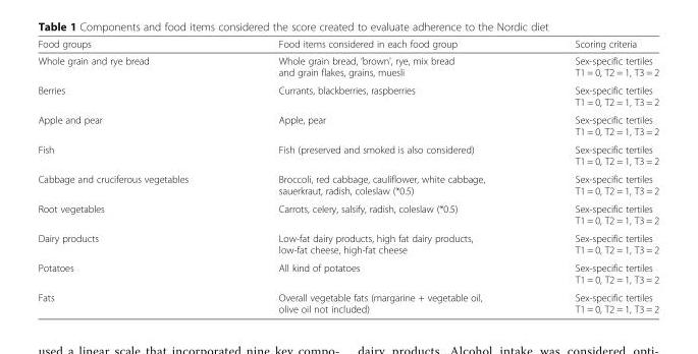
<table><thead><tr><td>Food groups</td><td>Food items considered in each food group</td><td>Scoring criteria</td></tr></thead><tbody><tr><td>Whole grain and rye bread</td><td>Whole grain bread, ‘brown’, rye, mix bread and grain flakes, grains, muesli</td><td>Sex-specific tertiles T1 = 0, T2 = 1, T3 = 2</td></tr><tr><td>Berries</td><td>Currants, blackberries, raspberries</td><td>Sex-specific tertiles T1 = 0, T2 = 1, T3 = 2</td></tr><tr><td>Apple and pear</td><td>Apple, pear</td><td>Sex-specific tertiles T1 = 0, T2 = 1, T3 = 2</td></tr><tr><td>Fish</td><td>Fish (preserved and smoked is also considered)</td><td>Sex-specific tertiles T1 = 0, T2 = 1, T3 = 2</td></tr><tr><td>Cabbage and cruciferous vegetables</td><td>Broccoli, red cabbage, cauliflower, white cabbage, sauerkraut, radish, coleslaw (*0.5)</td><td>Sex-specific tertiles T1 = 0, T2 = 1, T3 = 2</td></tr><tr><td>Root vegetables</td><td>Carrots, celery, salsify, radish, coleslaw (*0.5)</td><td>Sex-specific tertiles T1 = 0, T2 = 1, T3 = 2</td></tr><tr><td>Dairy products</td><td>Low-fat dairy products, high fat dairy products, low-fat cheese, high-fat cheese</td><td>Sex-specific tertiles T1 = 0, T2 = 1, T3 = 2</td></tr><tr><td>Potatoes</td><td>All kind of potatoes</td><td>Sex-specific tertiles T1 = 0, T2 = 1, T3 = 2</td></tr><tr><td>Fats</td><td>Overall vegetable fats (margarine + vegetable oil, olive oil not included)</td><td>Sex-specific tertiles T1 = 0, T2 = 1, T3 = 2</td></tr></tbody></table>